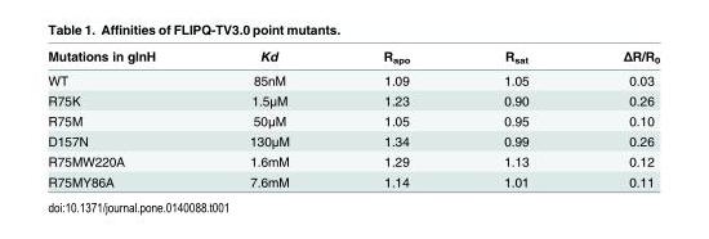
<table><thead><tr><td>Mutations in glnH</td><td>Kd</td><td>R<sub>apo</sub></td><td>R<sub>sat</sub></td><td>ΔR/R<sub>0</sub></td></tr></thead><tbody><tr><td>WT</td><td>85nM</td><td>1.09</td><td>1.05</td><td>0.03</td></tr><tr><td>R75K</td><td>1.5μM</td><td>1.23</td><td>0.90</td><td>0.26</td></tr><tr><td>R75M</td><td>50μM</td><td>1.05</td><td>0.95</td><td>0.10</td></tr><tr><td>D157N</td><td>130μM</td><td>1.34</td><td>0.99</td><td>0.26</td></tr><tr><td>R75MW220A</td><td>1.6mM</td><td>1.29</td><td>1.13</td><td>0.12</td></tr><tr><td>R75MY86A</td><td>7.6mM</td><td>1.14</td><td>1.01</td><td>0.11</td></tr></tbody></table>